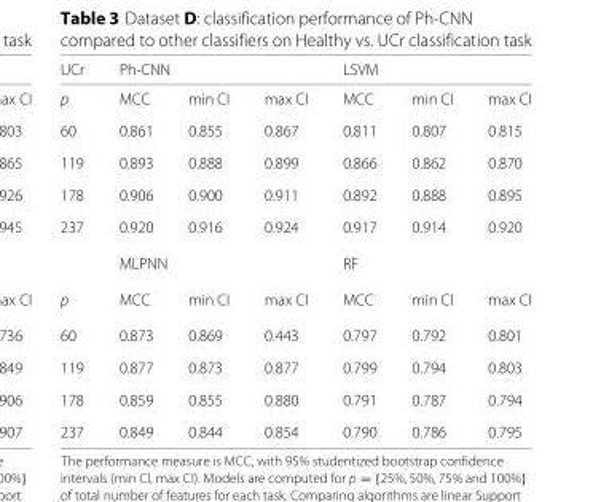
<table><thead><tr><td rowspan="2">UCr p</td><td colspan="3">Ph-CNN</td><td colspan="3">LSVM</td></tr><tr><td>MCC</td><td>min CI</td><td>max CI</td><td>MCC</td><td>min CI</td><td>max CI</td></tr></thead><tbody><tr><td>60</td><td>0.861</td><td>0.855</td><td>0.867</td><td>0.811</td><td>0.807</td><td>0.815</td></tr><tr><td>119</td><td>0.893</td><td>0.888</td><td>0.899</td><td>0.866</td><td>0.862</td><td>0.870</td></tr><tr><td>178</td><td>0.906</td><td>0.900</td><td>0.911</td><td>0.892</td><td>0.888</td><td>0.895</td></tr><tr><td rowspan="2">237</td><td>0.920</td><td>0.916</td><td>0.924</td><td>0.917</td><td>0.914</td><td>0.920</td></tr><tr><td colspan="3">MLPNN</td><td colspan="3">RF</td></tr><tr><td>p</td><td>MCC</td><td>min CI</td><td>max CI</td><td>MCC</td><td>min CI</td><td>max CI</td></tr><tr><td>60</td><td>0.873</td><td>0.869</td><td>0.443</td><td>0.797</td><td>0.792</td><td>0.801</td></tr><tr><td>119</td><td>0.877</td><td>0.873</td><td>0.877</td><td>0.799</td><td>0.794</td><td>0.803</td></tr><tr><td>178</td><td>0.859</td><td>0.855</td><td>0.880</td><td>0.791</td><td>0.787</td><td>0.794</td></tr><tr><td>237</td><td>0.849</td><td>0.844</td><td>0.854</td><td>0.790</td><td>0.786</td><td>0.795</td></tr></tbody></table>